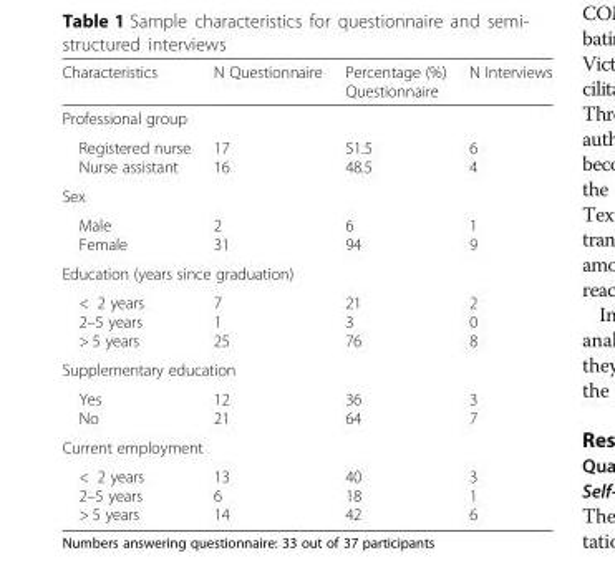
<table><thead><tr><td>Characteristics</td><td>N Questionnaire</td><td>Percentage (%) Questionnaire</td><td>N Interviews</td></tr></thead><tbody><tr><td colspan="4">Professional group</td></tr><tr><td>Registered nurse Nurse assistant</td><td>17 16</td><td>51.5 48.5</td><td>6 4</td></tr><tr><td colspan="4">Sex</td></tr><tr><td>Male Female</td><td>2 31</td><td>6 94</td><td>1 9</td></tr><tr><td colspan="4">Education (years since graduation)</td></tr><tr><td>&lt; 2 years 2–5 years &gt; 5 years</td><td>7 1 25</td><td>21 3 76</td><td>2 0 8</td></tr><tr><td colspan="4">Supplementary education</td></tr><tr><td>Yes No</td><td>12 21</td><td>36 64</td><td>3 7</td></tr><tr><td colspan="4">Current employment</td></tr><tr><td>&lt; 2 years 2–5 years &gt; 5 years</td><td>13 6 14</td><td>40 18 42</td><td>3 1 6</td></tr></tbody></table>